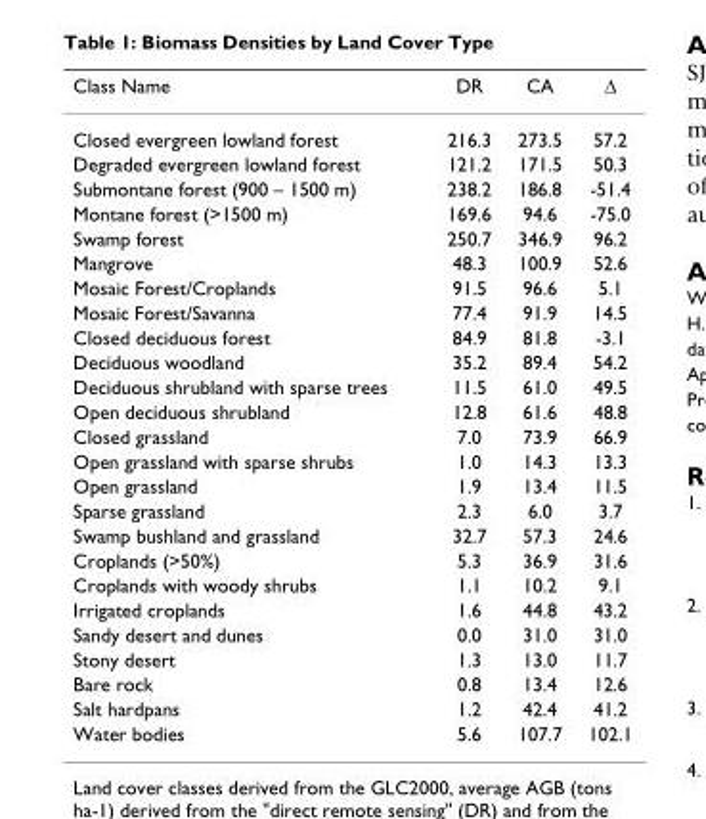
<table><thead><tr><td>Class Name</td><td>DR</td><td>CA</td><td>Δ</td></tr></thead><tbody><tr><td>Closed evergreen lowland forest</td><td>216.3</td><td>273.5</td><td>57.2</td></tr><tr><td>Degraded evergreen lowland forest</td><td>121.2</td><td>171.5</td><td>50.3</td></tr><tr><td>Submontane forest (900 – 1500 m)</td><td>238.2</td><td>186.8</td><td>-51.4</td></tr><tr><td>Montane forest (&gt;1500 m)</td><td>169.6</td><td>94.6</td><td>-75.0</td></tr><tr><td>Swamp forest</td><td>250.7</td><td>346.9</td><td>96.2</td></tr><tr><td>Mangrove</td><td>48.3</td><td>100.9</td><td>52.6</td></tr><tr><td>Mosaic Forest/Croplands</td><td>91.5</td><td>96.6</td><td>5.1</td></tr><tr><td>Mosaic Forest/Savanna</td><td>77.4</td><td>91.9</td><td>14.5</td></tr><tr><td>Closed deciduous forest</td><td>84.9</td><td>81.8</td><td>-3.1</td></tr><tr><td>Deciduous woodland</td><td>35.2</td><td>89.4</td><td>54.2</td></tr><tr><td>Deciduous shrubland with sparse trees</td><td>11.5</td><td>61.0</td><td>49.5</td></tr><tr><td>Open deciduous shrubland</td><td>12.8</td><td>61.6</td><td>48.8</td></tr><tr><td>Closed grassland</td><td>7.0</td><td>73.9</td><td>66.9</td></tr><tr><td>Open grassland with sparse shrubs</td><td>1.0</td><td>14.3</td><td>13.3</td></tr><tr><td>Open grassland</td><td>1.9</td><td>13.4</td><td>11.5</td></tr><tr><td>Sparse grassland</td><td>2.3</td><td>6.0</td><td>3.7</td></tr><tr><td>Swamp bushland and grassland</td><td>32.7</td><td>57.3</td><td>24.6</td></tr><tr><td>Croplands (&gt;50%)</td><td>5.3</td><td>36.9</td><td>31.6</td></tr><tr><td>Croplands with woody shrubs</td><td>1.1</td><td>10.2</td><td>9.1</td></tr><tr><td>Irrigated croplands</td><td>1.6</td><td>44.8</td><td>43.2</td></tr><tr><td>Sandy desert and dunes</td><td>0.0</td><td>31.0</td><td>31.0</td></tr><tr><td>Stony desert</td><td>1.3</td><td>13.0</td><td>11.7</td></tr><tr><td>Bare rock</td><td>0.8</td><td>13.4</td><td>12.6</td></tr><tr><td>Salt hardpans</td><td>1.2</td><td>42.4</td><td>41.2</td></tr><tr><td>Water bodies</td><td>5.6</td><td>107.7</td><td>102.1</td></tr></tbody></table>